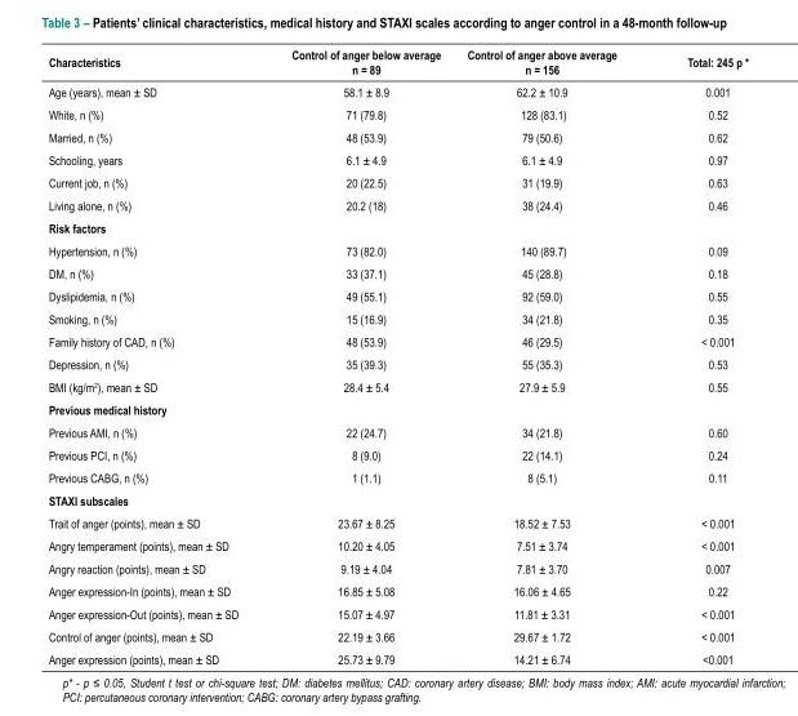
<table><thead><tr><td>Characteristics</td><td>Control of anger below average n = 89</td><td>Control of anger above average n = 156</td><td>Total: 245 p *</td></tr></thead><tbody><tr><td>Age (years), mean ± SD</td><td>58.1 ± 8.9</td><td>62.2 ± 10.9</td><td>0.001</td></tr><tr><td>White, n (%)</td><td>71 (79.8)</td><td>128 (83.1)</td><td>0.52</td></tr><tr><td>Married, n (%)</td><td>48 (53.9)</td><td>79 (50.6)</td><td>0.62</td></tr><tr><td>Schooling, years</td><td>6.1 ± 4.9</td><td>6.1 ± 4.9</td><td>0.97</td></tr><tr><td>Current job, n (%)</td><td>20 (22.5)</td><td>31 (19.9)</td><td>0.63</td></tr><tr><td>Living alone, n (%)</td><td>20.2 (18)</td><td>38 (24.4)</td><td>0.46</td></tr><tr><td colspan="4">Risk factors</td></tr><tr><td>Hypertension, n (%)</td><td>73 (82.0)</td><td>140 (89.7)</td><td>0.09</td></tr><tr><td>DM, n (%)</td><td>33 (37.1)</td><td>45 (28.8)</td><td>0.18</td></tr><tr><td>Dyslipidemia, n (%)</td><td>49 (55.1)</td><td>92 (59.0)</td><td>0.55</td></tr><tr><td>Smoking, n (%)</td><td>15 (16.9)</td><td>34 (21.8)</td><td>0.35</td></tr><tr><td>Family history of CAD, n (%)</td><td>48 (53.9)</td><td>46 (29.5)</td><td>&lt; 0.001</td></tr><tr><td>Depression, n (%)</td><td>35 (39.3)</td><td>55 (35.3)</td><td>0.53</td></tr><tr><td>BMI (kg/m<sup>2</sup>), mean ± SD</td><td>28.4 ± 5.4</td><td>27.9 ± 5.9</td><td>0.55</td></tr><tr><td colspan="4">Previous medical history</td></tr><tr><td>Previous AMI, n (%)</td><td>22 (24.7)</td><td>34 (21.8)</td><td>0.60</td></tr><tr><td>Previous PCI, n (%)</td><td>8 (9.0)</td><td>22 (14.1)</td><td>0.24</td></tr><tr><td>Previous CABG, n (%)</td><td>1 (1.1)</td><td>8 (5.1)</td><td>0.11</td></tr><tr><td colspan="4">STAXI subscales</td></tr><tr><td>Trait of anger (points), mean ± SD</td><td>23.67 ± 8.25</td><td>18.52 ± 7.53</td><td>&lt; 0.001</td></tr><tr><td>Angry temperament (points), mean ± SD</td><td>10.20 ± 4.05</td><td>7.51 ± 3.74</td><td>&lt; 0.001</td></tr><tr><td>Angry reaction (points), mean ± SD</td><td>9.19 ± 4.04</td><td>7.81 ± 3.70</td><td>0.007</td></tr><tr><td>Anger expression-In (points), mean ± SD</td><td>16.85 ± 5.08</td><td>16.06 ± 4.65</td><td>0.22</td></tr><tr><td>Anger expression-Out (points), mean ± SD</td><td>15.07 ± 4.97</td><td>11.81 ± 3.31</td><td>&lt; 0.001</td></tr><tr><td>Control of anger (points), mean ± SD</td><td>22.19 ± 3.66</td><td>29.67 ± 1.72</td><td>&lt; 0.001</td></tr><tr><td>Anger expression (points), mean ± SD</td><td>25.73 ± 9.79</td><td>14.21 ± 6.74</td><td>&lt;0.001</td></tr></tbody></table>